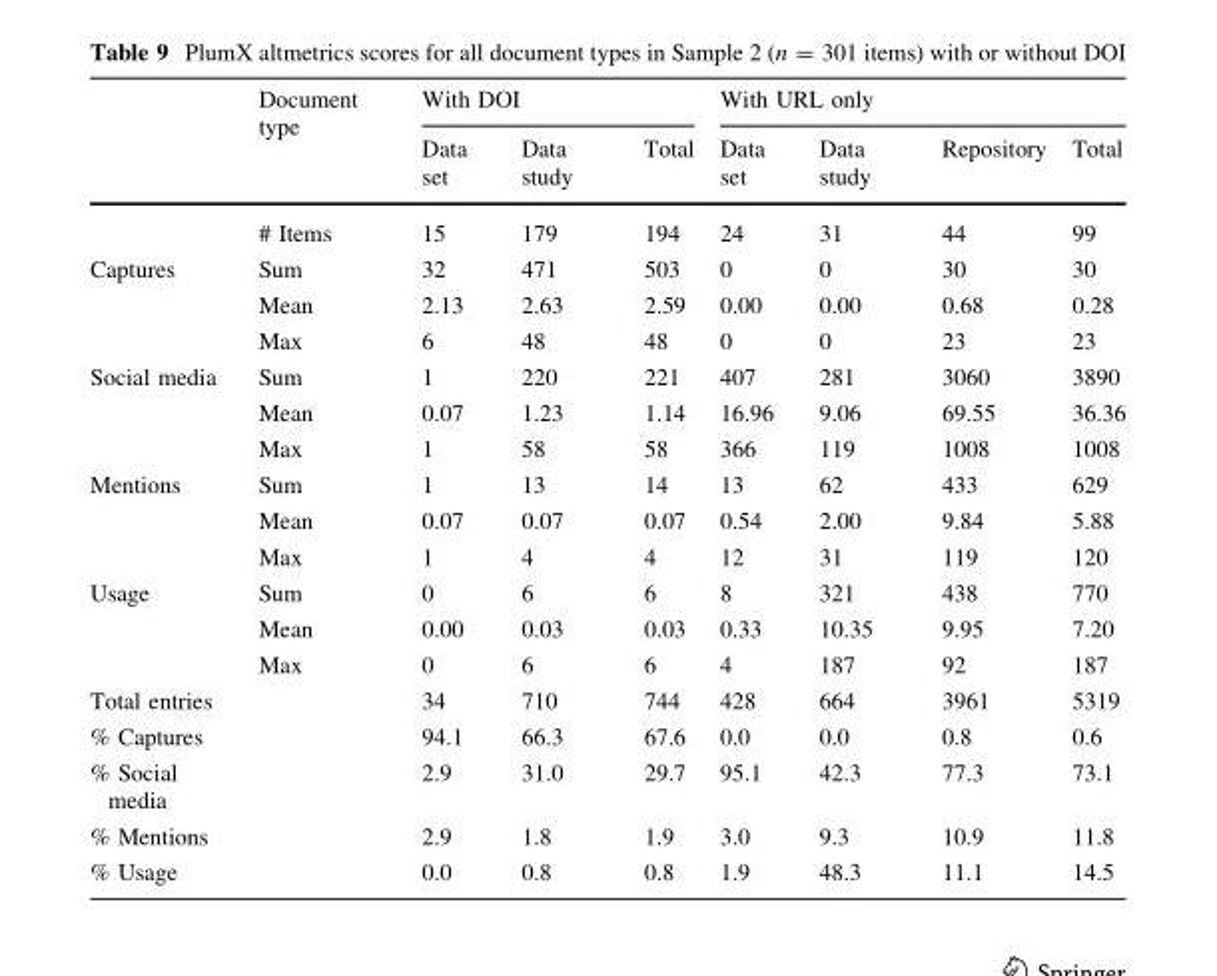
<table><thead><tr><td rowspan="2"></td><td rowspan="2">Document type</td><td colspan="3">With DOI</td><td colspan="4">With URL only</td></tr><tr><td>Data set</td><td>Data study</td><td>Total</td><td>Data set</td><td>Data study</td><td>Repository</td><td>Total</td></tr></thead><tbody><tr><td></td><td># Items</td><td>15</td><td>179</td><td>194</td><td>24</td><td>31</td><td>44</td><td>99</td></tr><tr><td rowspan="3">Captures</td><td>Sum</td><td>32</td><td>471</td><td>503</td><td>0</td><td>0</td><td>30</td><td>30</td></tr><tr><td>Mean</td><td>2.13</td><td>2.63</td><td>2.59</td><td>0.00</td><td>0.00</td><td>0.68</td><td>0.28</td></tr><tr><td>Max</td><td>6</td><td>48</td><td>48</td><td>0</td><td>0</td><td>23</td><td>23</td></tr><tr><td rowspan="3">Social media</td><td>Sum</td><td>1</td><td>220</td><td>221</td><td>407</td><td>281</td><td>3060</td><td>3890</td></tr><tr><td>Mean</td><td>0.07</td><td>1.23</td><td>1.14</td><td>16.96</td><td>9.06</td><td>69.55</td><td>36.36</td></tr><tr><td>Max</td><td>1</td><td>58</td><td>58</td><td>366</td><td>119</td><td>1008</td><td>1008</td></tr><tr><td rowspan="3">Mentions</td><td>Sum</td><td>1</td><td>13</td><td>14</td><td>13</td><td>62</td><td>433</td><td>629</td></tr><tr><td>Mean</td><td>0.07</td><td>0.07</td><td>0.07</td><td>0.54</td><td>2.00</td><td>9.84</td><td>5.88</td></tr><tr><td>Max</td><td>1</td><td>4</td><td>4</td><td>12</td><td>31</td><td>119</td><td>120</td></tr><tr><td rowspan="3">Usage</td><td>Sum</td><td>0</td><td>6</td><td>6</td><td>8</td><td>321</td><td>438</td><td>770</td></tr><tr><td>Mean</td><td>0.00</td><td>0.03</td><td>0.03</td><td>0.33</td><td>10.35</td><td>9.95</td><td>7.20</td></tr><tr><td>Max</td><td>0</td><td>6</td><td>6</td><td>4</td><td>187</td><td>92</td><td>187</td></tr><tr><td>Total entries</td><td></td><td>34</td><td>710</td><td>744</td><td>428</td><td>664</td><td>3961</td><td>5319</td></tr><tr><td>% Captures</td><td></td><td>94.1</td><td>66.3</td><td>67.6</td><td>0.0</td><td>0.0</td><td>0.8</td><td>0.6</td></tr><tr><td>% Social media</td><td></td><td>2.9</td><td>31.0</td><td>29.7</td><td>95.1</td><td>42.3</td><td>77.3</td><td>73.1</td></tr><tr><td>% Mentions</td><td></td><td>2.9</td><td>1.8</td><td>1.9</td><td>3.0</td><td>9.3</td><td>10.9</td><td>11.8</td></tr><tr><td>% Usage</td><td></td><td>0.0</td><td>0.8</td><td>0.8</td><td>1.9</td><td>48.3</td><td>11.1</td><td>14.5</td></tr></tbody></table>